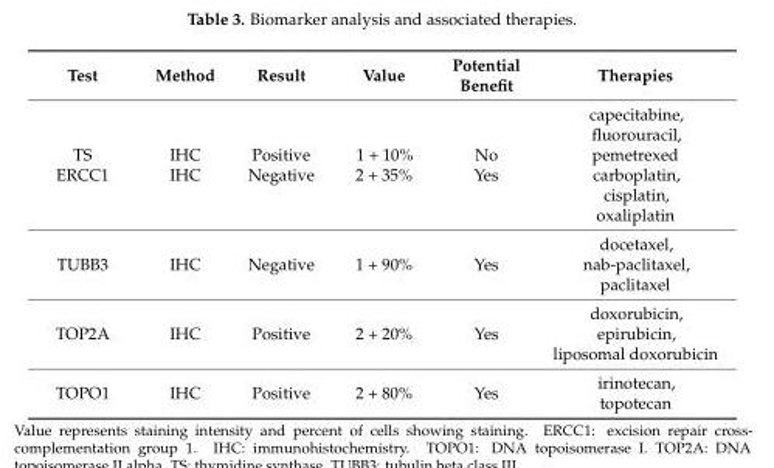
<table><thead><tr><td>Test</td><td>Method</td><td>Result</td><td>Value</td><td>Potential Benefit</td><td>Therapies</td></tr></thead><tbody><tr><td>TS ERCC1</td><td>IHC IHC</td><td>Positive Negative</td><td>1 + 10% 2 + 35%</td><td>No Yes</td><td>capecitabine, fluorouracil, pemetrexed carboplatin, cisplatin, oxaliplatin</td></tr><tr><td>TUBB3</td><td>IHC</td><td>Negative</td><td>1 + 90%</td><td>Yes</td><td>docetaxel, nab-paclitaxel, paclitaxel</td></tr><tr><td>TOP2A</td><td>IHC</td><td>Positive</td><td>2 + 20%</td><td>Yes</td><td>doxorubicin, epirubicin, liposomal doxorubicin</td></tr><tr><td>TOPO1</td><td>IHC</td><td>Positive</td><td>2 + 80%</td><td>Yes</td><td>irinotecan, topotecan</td></tr></tbody></table>